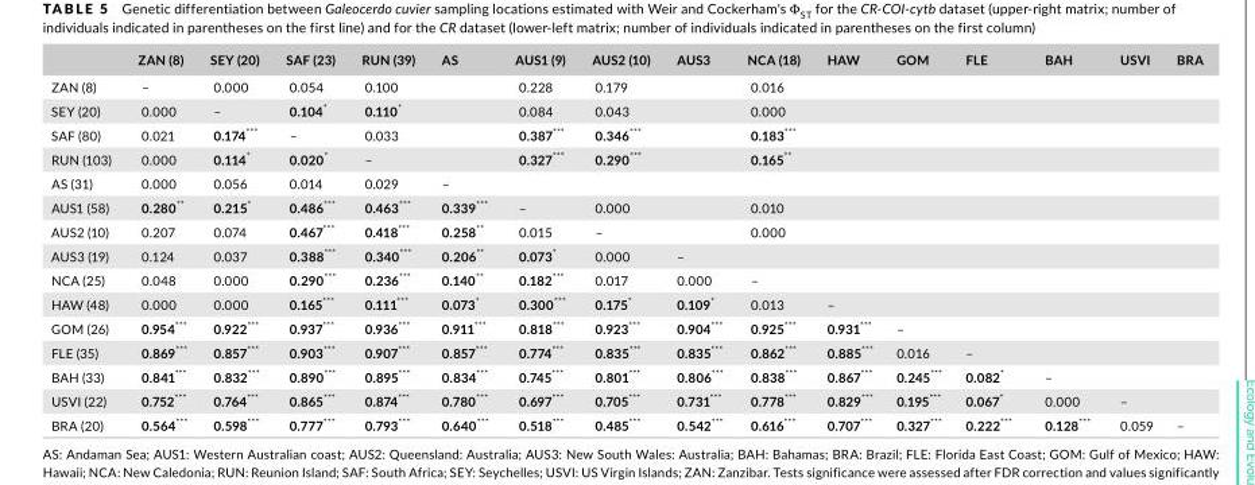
<table><thead><tr><td></td><td>ZAN (8)</td><td>SEY (20)</td><td>SAF (23)</td><td>RUN (39)</td><td>AS</td><td>AUS1 (9)</td><td>AUS2 (10)</td><td>AUS3</td><td>NCA (18)</td><td>HAW</td><td>GOM</td><td>FLE</td><td>BAH</td><td>USVI</td><td>BRA</td></tr></thead><tbody><tr><td>ZAN (8)</td><td>–</td><td>0.000</td><td>0.054</td><td>0.100</td><td></td><td>0.228</td><td>0.179</td><td></td><td>0.016</td><td></td><td></td><td></td><td></td><td></td><td></td></tr><tr><td>SEY (20)</td><td>0.000</td><td>–</td><td>0.104*</td><td>0.110*</td><td></td><td>0.084</td><td>0.043</td><td></td><td>0.000</td><td></td><td></td><td></td><td></td><td></td><td></td></tr><tr><td>SAF (80)</td><td>0.021</td><td>0.174***</td><td>–</td><td>0.033</td><td></td><td>0.387***</td><td>0.346***</td><td></td><td>0.183***</td><td></td><td></td><td></td><td></td><td></td><td></td></tr><tr><td>RUN (103)</td><td>0.000</td><td>0.114*</td><td>0.020*</td><td>–</td><td></td><td>0.327***</td><td>0.290***</td><td></td><td>0.165**</td><td></td><td></td><td></td><td></td><td></td><td></td></tr><tr><td>AS (31)</td><td>0.000</td><td>0.056</td><td>0.014</td><td>0.029</td><td>–</td><td></td><td></td><td></td><td></td><td></td><td></td><td></td><td></td><td></td><td></td></tr><tr><td>AUS1 (58)</td><td>0.280**</td><td>0.215*</td><td>0.486***</td><td>0.463***</td><td>0.339***</td><td>–</td><td>0.000</td><td></td><td>0.010</td><td></td><td></td><td></td><td></td><td></td><td></td></tr><tr><td>AUS2 (10)</td><td>0.207</td><td>0.074</td><td>0.467***</td><td>0.418***</td><td>0.258**</td><td>0.015</td><td>–</td><td></td><td>0.000</td><td></td><td></td><td></td><td></td><td></td><td></td></tr><tr><td>AUS3 (19)</td><td>0.124</td><td>0.037</td><td>0.388***</td><td>0.340***</td><td>0.206**</td><td>0.073*</td><td>0.000</td><td>–</td><td></td><td></td><td></td><td></td><td></td><td></td><td></td></tr><tr><td>NCA (25)</td><td>0.048</td><td>0.000</td><td>0.290***</td><td>0.236***</td><td>0.140**</td><td>0.182***</td><td>0.017</td><td>0.000</td><td>–</td><td></td><td></td><td></td><td></td><td></td><td></td></tr><tr><td>HAW (48)</td><td>0.000</td><td>0.000</td><td>0.165***</td><td>0.111***</td><td>0.073*</td><td>0.300***</td><td>0.175*</td><td>0.109*</td><td>0.013</td><td>–</td><td></td><td></td><td></td><td></td><td></td></tr><tr><td>GOM (26)</td><td>0.954***</td><td>0.922***</td><td>0.937***</td><td>0.936***</td><td>0.911***</td><td>0.818***</td><td>0.923***</td><td>0.904***</td><td>0.925***</td><td>0.931***</td><td>–</td><td></td><td></td><td></td><td></td></tr><tr><td>FLE (35)</td><td>0.869***</td><td>0.857***</td><td>0.903***</td><td>0.907***</td><td>0.857***</td><td>0.774***</td><td>0.835***</td><td>0.835***</td><td>0.862***</td><td>0.885***</td><td>0.016</td><td>–</td><td></td><td></td><td></td></tr><tr><td>BAH (33)</td><td>0.841***</td><td>0.832***</td><td>0.890***</td><td>0.895***</td><td>0.834***</td><td>0.745***</td><td>0.801***</td><td>0.806***</td><td>0.838***</td><td>0.867***</td><td>0.245***</td><td>0.082*</td><td>–</td><td></td><td></td></tr><tr><td>USVI (22)</td><td>0.752***</td><td>0.764***</td><td>0.865***</td><td>0.874***</td><td>0.780***</td><td>0.697***</td><td>0.705***</td><td>0.731***</td><td>0.778***</td><td>0.829***</td><td>0.195***</td><td>0.067*</td><td>0.000</td><td>–</td><td></td></tr><tr><td>BRA (20)</td><td>0.564***</td><td>0.598***</td><td>0.777***</td><td>0.793***</td><td>0.640***</td><td>0.518***</td><td>0.485***</td><td>0.542***</td><td>0.616***</td><td>0.707***</td><td>0.327***</td><td>0.222***</td><td>0.128***</td><td>0.059</td><td>–</td></tr></tbody></table>